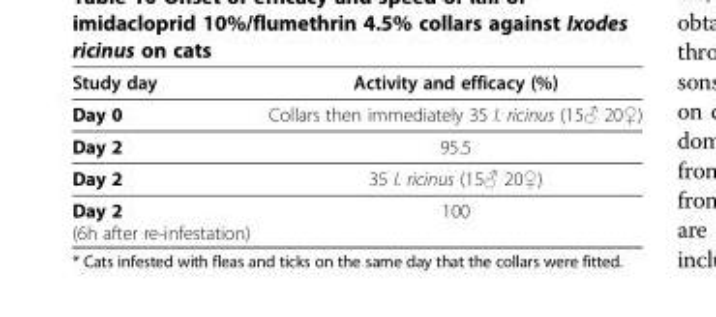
<table><thead><tr><td>Study day</td><td>Activity and efficacy (%)</td></tr></thead><tbody><tr><td>Day 0</td><td>Collars then immediately 35 I. ricinus (15♂ 20♀)</td></tr><tr><td>Day 2</td><td>95.5</td></tr><tr><td>Day 2</td><td>35 I. ricinus (15♂ 20♀)</td></tr><tr><td>Day 2 (6h after re-infestation)</td><td>100</td></tr></tbody></table>